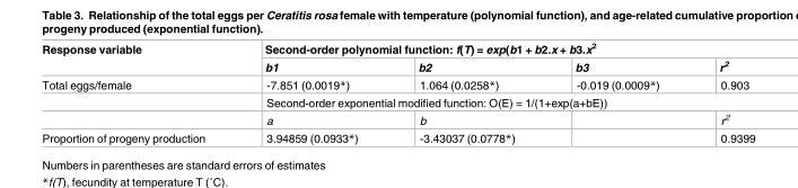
<table><thead><tr><td rowspan="2">Response variable</td><td colspan="4">Second-order polynomial function: f(T) = exp(b1 + b2.x + b3.x<sup>2</sup></td></tr><tr><td>b1</td><td>b2</td><td>b3</td><td>r<sup>2</sup></td></tr></thead><tbody><tr><td rowspan="3">Total eggs/female</td><td>-7.851 (0.0019*)</td><td>1.064 (0.0258*)</td><td>-0.019 (0.0009*)</td><td>0.903</td></tr><tr><td colspan="4">Second-order exponential modified function: O(E) = 1/(1+exp(a+bE))</td></tr><tr><td>a</td><td>b</td><td></td><td>r<sup>2</sup></td></tr><tr><td>Proportion of progeny production</td><td>3.94859 (0.0933*)</td><td>-3.43037 (0.0778*)</td><td></td><td>0.9399</td></tr></tbody></table>